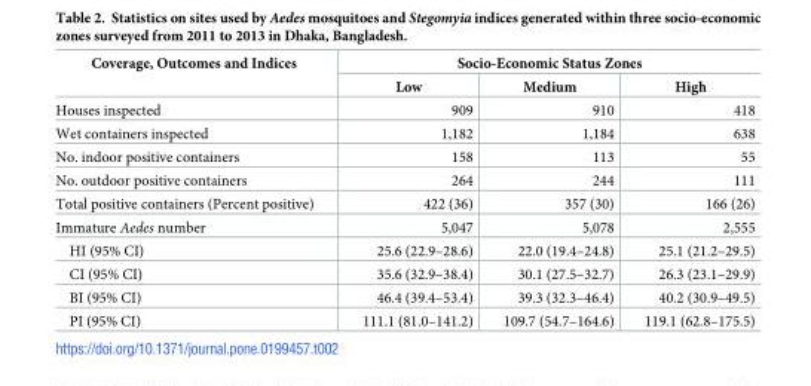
<table><thead><tr><td rowspan="2">Coverage, Outcomes and Indices</td><td colspan="3">Socio-Economic Status Zones</td></tr><tr><td>Low</td><td>Medium</td><td>High</td></tr></thead><tbody><tr><td>Houses inspected</td><td>909</td><td>910</td><td>418</td></tr><tr><td>Wet containers inspected</td><td>1,182</td><td>1,184</td><td>638</td></tr><tr><td>No. indoor positive containers</td><td>158</td><td>113</td><td>55</td></tr><tr><td>No. outdoor positive containers</td><td>264</td><td>244</td><td>111</td></tr><tr><td>Total positive containers (Percent positive)</td><td>422 (36)</td><td>357 (30)</td><td>166 (26)</td></tr><tr><td>Immature Aedes number</td><td>5,047</td><td>5,078</td><td>2,555</td></tr><tr><td>HI (95% CI)</td><td>25.6 (22.9–28.6)</td><td>22.0 (19.4–24.8)</td><td>25.1 (21.2–29.5)</td></tr><tr><td>CI (95% CI)</td><td>35.6 (32.9–38.4)</td><td>30.1 (27.5–32.7)</td><td>26.3 (23.1–29.9)</td></tr><tr><td>BI (95% CI)</td><td>46.4 (39.4–53.4)</td><td>39.3 (32.3–46.4)</td><td>40.2 (30.9–49.5)</td></tr><tr><td>PI (95% CI)</td><td>111.1 (81.0–141.2)</td><td>109.7 (54.7–164.6)</td><td>119.1 (62.8–175.5)</td></tr></tbody></table>